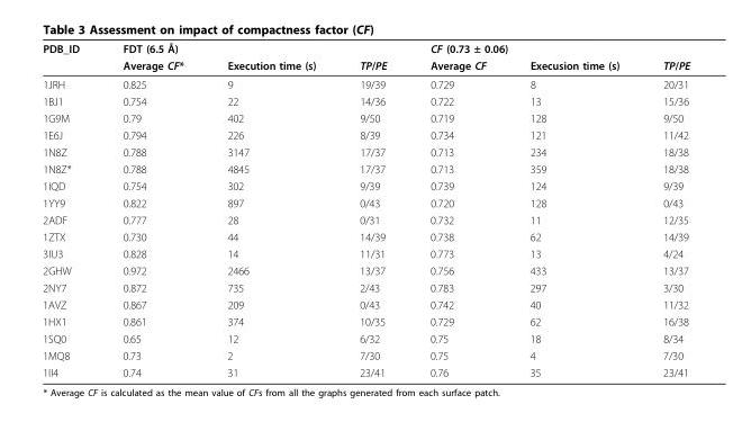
<table><thead><tr><td rowspan="2">PDB_ID</td><td colspan="3">FDT (6.5 Å)</td><td colspan="3">CF (0.73 ± 0.06)</td></tr><tr><td>Average CF*</td><td>Execution time (s)</td><td>TP/PE</td><td>Average CF</td><td>Execusion time (s)</td><td>TP/PE</td></tr></thead><tbody><tr><td>1JRH</td><td>0.825</td><td>9</td><td>19/39</td><td>0.729</td><td>8</td><td>20/31</td></tr><tr><td>1BJ1</td><td>0.754</td><td>22</td><td>14/36</td><td>0.722</td><td>13</td><td>15/36</td></tr><tr><td>1G9M</td><td>0.79</td><td>402</td><td>9/50</td><td>0.719</td><td>128</td><td>9/50</td></tr><tr><td>1E6J</td><td>0.794</td><td>226</td><td>8/39</td><td>0.734</td><td>121</td><td>11/42</td></tr><tr><td>1N8Z</td><td>0.788</td><td>3147</td><td>17/37</td><td>0.713</td><td>234</td><td>18/38</td></tr><tr><td>1N8Z*</td><td>0.788</td><td>4845</td><td>17/37</td><td>0.713</td><td>359</td><td>18/38</td></tr><tr><td>1IQD</td><td>0.754</td><td>302</td><td>9/39</td><td>0.739</td><td>124</td><td>9/39</td></tr><tr><td>1YY9</td><td>0.822</td><td>897</td><td>0/43</td><td>0.720</td><td>128</td><td>0/43</td></tr><tr><td>2ADF</td><td>0.777</td><td>28</td><td>0/31</td><td>0.732</td><td>11</td><td>12/35</td></tr><tr><td>1ZTX</td><td>0.730</td><td>44</td><td>14/39</td><td>0.738</td><td>62</td><td>14/39</td></tr><tr><td>3IU3</td><td>0.828</td><td>14</td><td>11/31</td><td>0.773</td><td>13</td><td>4/24</td></tr><tr><td>2GHW</td><td>0.972</td><td>2466</td><td>13/37</td><td>0.756</td><td>433</td><td>13/37</td></tr><tr><td>2NY7</td><td>0.872</td><td>735</td><td>2/43</td><td>0.783</td><td>297</td><td>3/30</td></tr><tr><td>1AVZ</td><td>0.867</td><td>209</td><td>0/43</td><td>0.742</td><td>40</td><td>11/32</td></tr><tr><td>1HX1</td><td>0.861</td><td>374</td><td>10/35</td><td>0.729</td><td>62</td><td>16/38</td></tr><tr><td>1SQ0</td><td>0.65</td><td>12</td><td>6/32</td><td>0.75</td><td>18</td><td>8/34</td></tr><tr><td>1MQ8</td><td>0.73</td><td>2</td><td>7/30</td><td>0.75</td><td>4</td><td>7/30</td></tr><tr><td>1II4</td><td>0.74</td><td>31</td><td>23/41</td><td>0.76</td><td>35</td><td>23/41</td></tr></tbody></table>